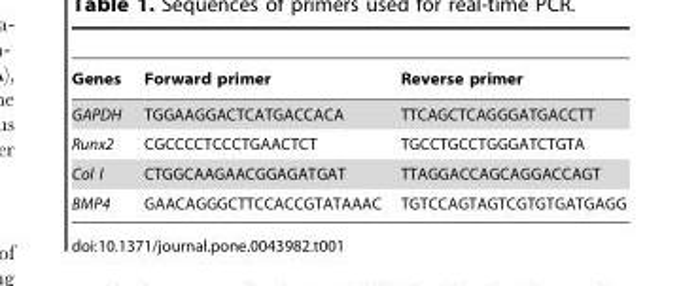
<table><thead><tr><td>Genes</td><td>Forward primer</td><td>Reverse primer</td></tr></thead><tbody><tr><td>GAPDH</td><td>TGGAAGGACTCATGACCACA</td><td>TTCAGCTCAGGGATGACCTT</td></tr><tr><td>Runx2</td><td>CGCCCCTCCCTGAACTCT</td><td>TGCCTGCCTGGGATCTGTA</td></tr><tr><td>Col I</td><td>CTGGCAAGAACGGAGATGAT</td><td>TTAGGACCAGCAGGACCAGT</td></tr><tr><td>BMP4</td><td>GAACAGGGCTTCCACCGTATAAAC</td><td>TGTCCAGTAGTCGTGTGATGAGG</td></tr></tbody></table>